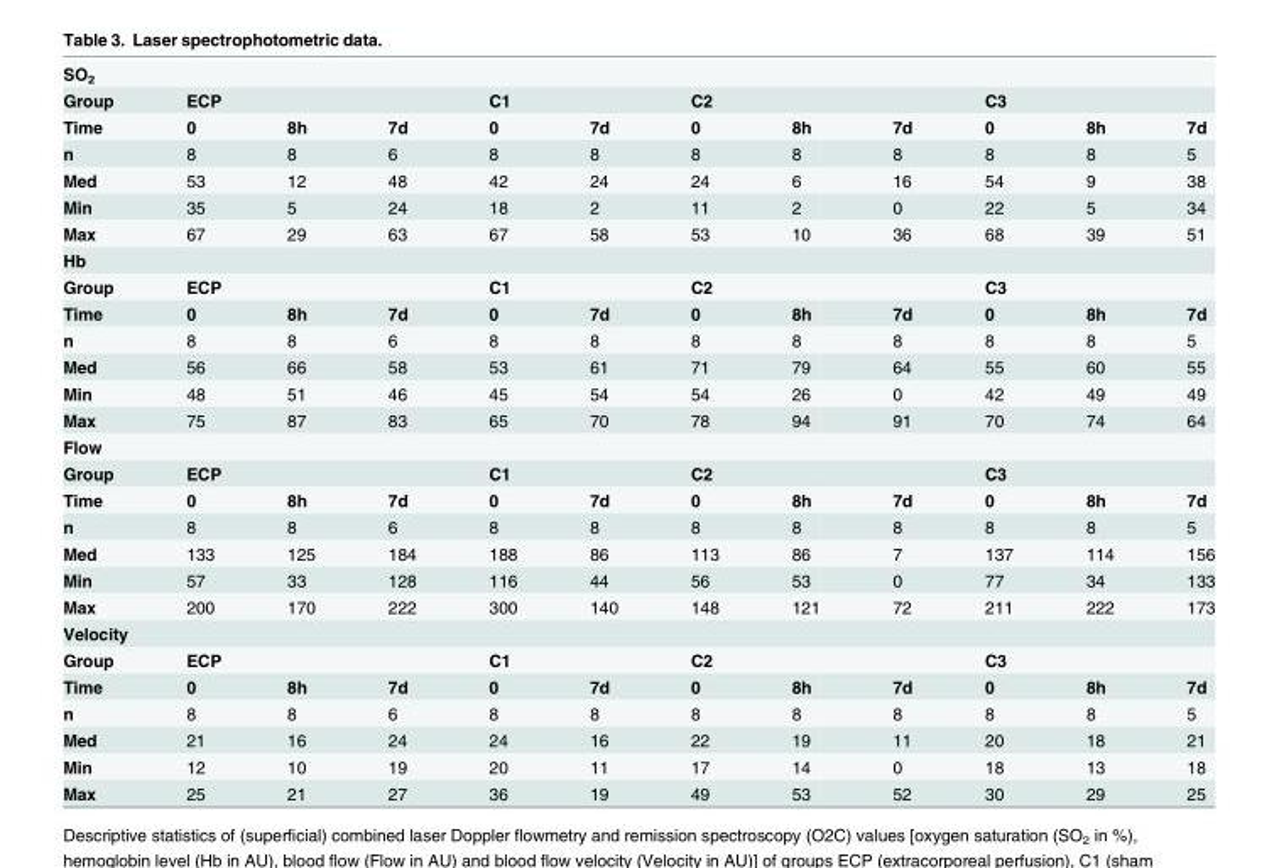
<table><tbody><tr><td colspan="12">SO<sub>2</sub></td></tr><tr><td>Group</td><td colspan="3">ECP</td><td colspan="2">C1</td><td colspan="3">C2</td><td colspan="3">C3</td></tr><tr><td>Time</td><td>0</td><td>8h</td><td>7d</td><td>0</td><td>7d</td><td>0</td><td>8h</td><td>7d</td><td>0</td><td>8h</td><td>7d</td></tr><tr><td>n</td><td>8</td><td>8</td><td>6</td><td>8</td><td>8</td><td>8</td><td>8</td><td>8</td><td>8</td><td>8</td><td>5</td></tr><tr><td>Med</td><td>53</td><td>12</td><td>48</td><td>42</td><td>24</td><td>24</td><td>6</td><td>16</td><td>54</td><td>9</td><td>38</td></tr><tr><td>Min</td><td>35</td><td>5</td><td>24</td><td>18</td><td>2</td><td>11</td><td>2</td><td>0</td><td>22</td><td>5</td><td>34</td></tr><tr><td>Max</td><td>67</td><td>29</td><td>63</td><td>67</td><td>58</td><td>53</td><td>10</td><td>36</td><td>68</td><td>39</td><td>51</td></tr><tr><td colspan="12">Hb</td></tr><tr><td>Group</td><td colspan="3">ECP</td><td colspan="2">C1</td><td colspan="3">C2</td><td colspan="3">C3</td></tr><tr><td>Time</td><td>0</td><td>8h</td><td>7d</td><td>0</td><td>7d</td><td>0</td><td>8h</td><td>7d</td><td>0</td><td>8h</td><td>7d</td></tr><tr><td>n</td><td>8</td><td>8</td><td>6</td><td>8</td><td>8</td><td>8</td><td>8</td><td>8</td><td>8</td><td>8</td><td>5</td></tr><tr><td>Med</td><td>56</td><td>66</td><td>58</td><td>53</td><td>61</td><td>71</td><td>79</td><td>64</td><td>55</td><td>60</td><td>55</td></tr><tr><td>Min</td><td>48</td><td>51</td><td>46</td><td>45</td><td>54</td><td>54</td><td>26</td><td>0</td><td>42</td><td>49</td><td>49</td></tr><tr><td>Max</td><td>75</td><td>87</td><td>83</td><td>65</td><td>70</td><td>78</td><td>94</td><td>91</td><td>70</td><td>74</td><td>64</td></tr><tr><td colspan="12">Flow</td></tr><tr><td>Group</td><td colspan="3">ECP</td><td colspan="2">C1</td><td colspan="3">C2</td><td colspan="3">C3</td></tr><tr><td>Time</td><td>0</td><td>8h</td><td>7d</td><td>0</td><td>7d</td><td>0</td><td>8h</td><td>7d</td><td>0</td><td>8h</td><td>7d</td></tr><tr><td>n</td><td>8</td><td>8</td><td>6</td><td>8</td><td>8</td><td>8</td><td>8</td><td>8</td><td>8</td><td>8</td><td>5</td></tr><tr><td>Med</td><td>133</td><td>125</td><td>184</td><td>188</td><td>86</td><td>113</td><td>86</td><td>7</td><td>137</td><td>114</td><td>156</td></tr><tr><td>Min</td><td>57</td><td>33</td><td>128</td><td>116</td><td>44</td><td>56</td><td>53</td><td>0</td><td>77</td><td>34</td><td>133</td></tr><tr><td>Max</td><td>200</td><td>170</td><td>222</td><td>300</td><td>140</td><td>148</td><td>121</td><td>72</td><td>211</td><td>222</td><td>173</td></tr><tr><td colspan="12">Velocity</td></tr><tr><td>Group</td><td colspan="3">ECP</td><td colspan="2">C1</td><td colspan="3">C2</td><td colspan="3">C3</td></tr><tr><td>Time</td><td>0</td><td>8h</td><td>7d</td><td>0</td><td>7d</td><td>0</td><td>8h</td><td>7d</td><td>0</td><td>8h</td><td>7d</td></tr><tr><td>n</td><td>8</td><td>8</td><td>6</td><td>8</td><td>8</td><td>8</td><td>8</td><td>8</td><td>8</td><td>8</td><td>5</td></tr><tr><td>Med</td><td>21</td><td>16</td><td>24</td><td>24</td><td>16</td><td>22</td><td>19</td><td>11</td><td>20</td><td>18</td><td>21</td></tr><tr><td>Min</td><td>12</td><td>10</td><td>19</td><td>20</td><td>11</td><td>17</td><td>14</td><td>0</td><td>18</td><td>13</td><td>18</td></tr><tr><td>Max</td><td>25</td><td>21</td><td>27</td><td>36</td><td>19</td><td>49</td><td>53</td><td>52</td><td>30</td><td>29</td><td>25</td></tr></tbody></table>